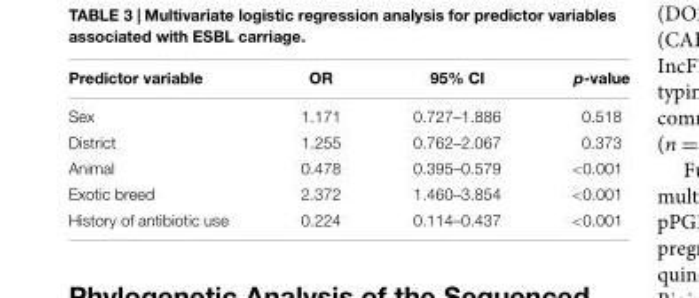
<table><thead><tr><td>Predictor variable</td><td>OR</td><td>95% CI</td><td>p-value</td></tr></thead><tbody><tr><td>Sex</td><td>1.171</td><td>0.727–1.886</td><td>0.518</td></tr><tr><td>District</td><td>1.255</td><td>0.762–2.067</td><td>0.373</td></tr><tr><td>Animal</td><td>0.478</td><td>0.395–0.579</td><td>&lt;0.001</td></tr><tr><td>Exotic breed</td><td>2.372</td><td>1.460–3.854</td><td>&lt;0.001</td></tr><tr><td>History of antibiotic use</td><td>0.224</td><td>0.114–0.437</td><td>&lt;0.001</td></tr></tbody></table>